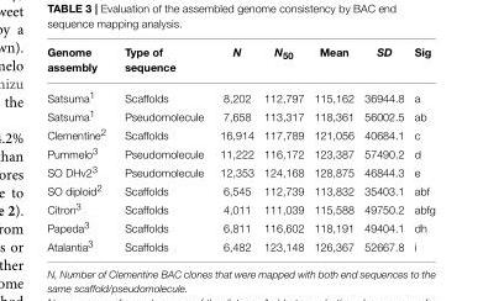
<table><thead><tr><td>Genome assembly</td><td>Type of sequence</td><td>N</td><td>N<sub>50</sub></td><td>Mean</td><td>SD</td><td>Sig</td></tr></thead><tbody><tr><td>Satsuma<sup>1</sup></td><td>Scaffolds</td><td>8,202</td><td>112,797</td><td>115,162</td><td>36944.8</td><td>a</td></tr><tr><td>Satsuma<sup>1</sup></td><td>Pseudomolecule</td><td>7,658</td><td>113,317</td><td>118,361</td><td>56002.5</td><td>ab</td></tr><tr><td>Clementine<sup>2</sup></td><td>Scaffolds</td><td>16,914</td><td>117,789</td><td>121,056</td><td>40684.1</td><td>c</td></tr><tr><td>Pummelo<sup>3</sup></td><td>Pseudomolecule</td><td>11,222</td><td>116,172</td><td>123,387</td><td>57490.2</td><td>d</td></tr><tr><td>SO DHv2<sup>3</sup></td><td>Pseudomolecule</td><td>12,353</td><td>124,168</td><td>128,875</td><td>46844.3</td><td>e</td></tr><tr><td>SO diploid<sup>2</sup></td><td>Scaffolds</td><td>6,545</td><td>112,739</td><td>113,832</td><td>35403.1</td><td>abf</td></tr><tr><td>Citron<sup>3</sup></td><td>Scaffolds</td><td>4,011</td><td>111,039</td><td>115,588</td><td>49750.2</td><td>abfg</td></tr><tr><td>Papeda<sup>3</sup></td><td>Scaffolds</td><td>6,811</td><td>116,602</td><td>118,191</td><td>49404.1</td><td>dh</td></tr><tr><td>Atalantia<sup>3</sup></td><td>Scaffolds</td><td>6,482</td><td>123,148</td><td>126,367</td><td>52667.8</td><td>i</td></tr></tbody></table>